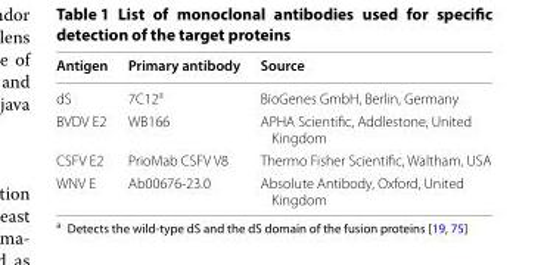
<table><thead><tr><td>Antigen</td><td>Primary antibody</td><td>Source</td></tr></thead><tbody><tr><td>dS</td><td>7C12<sup>a</sup></td><td>BioGenes GmbH, Berlin, Germany</td></tr><tr><td>BVDV E2</td><td>WB166</td><td>APHA Scientific, Addlestone, United Kingdom</td></tr><tr><td>CSFV E2</td><td>PrioMab CSFV V8</td><td>Thermo Fisher Scientific, Waltham, USA</td></tr><tr><td>WNV E</td><td>Ab00676‑23.0</td><td>Absolute Antibody, Oxford, United Kingdom</td></tr></tbody></table>